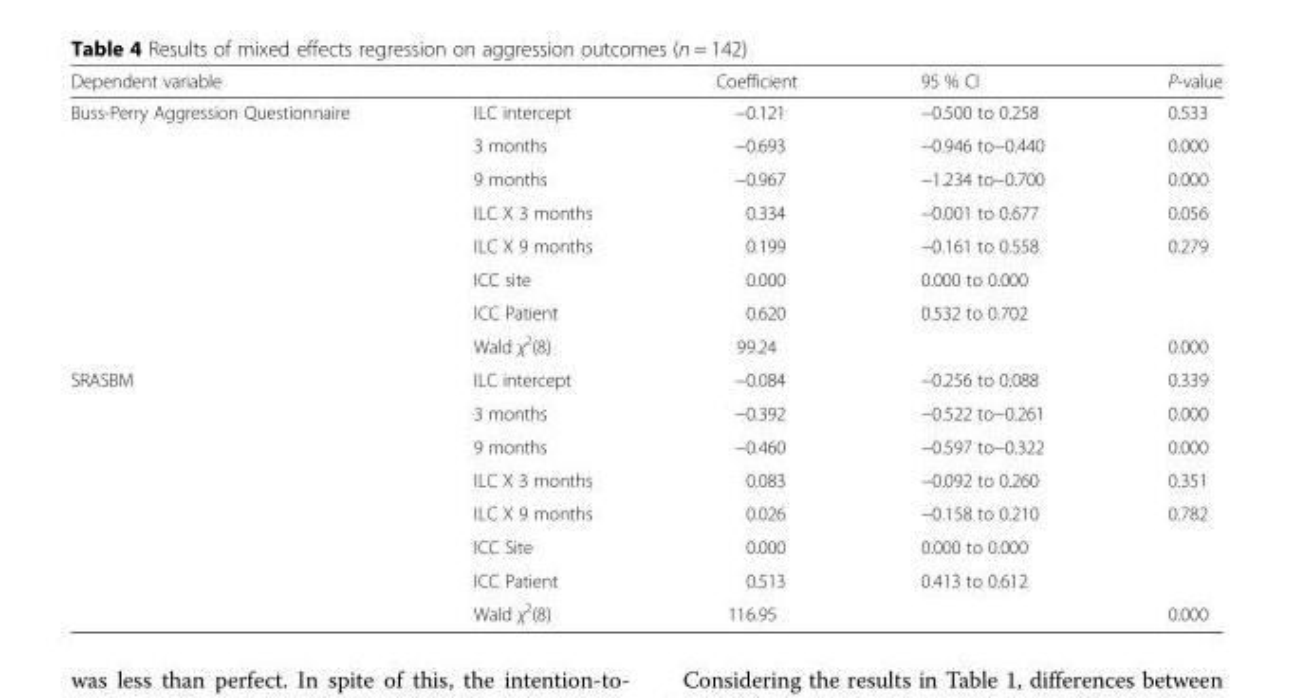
<table><thead><tr><td>Dependent variable</td><td></td><td>Coefficient</td><td>95 % CI</td><td>P-value</td></tr></thead><tbody><tr><td rowspan="8">Buss-Perry Aggression Questionnaire</td><td>ILC intercept</td><td>−0.121</td><td>−0.500 to 0.258</td><td>0.533</td></tr><tr><td>3 months</td><td>−0.693</td><td>−0.946 to−0.440</td><td>0.000</td></tr><tr><td>9 months</td><td>−0.967</td><td>−1.234 to−0.700</td><td>0.000</td></tr><tr><td>ILC X 3 months</td><td>0.334</td><td>−0.001 to 0.677</td><td>0.056</td></tr><tr><td>ILC X 9 months</td><td>0.199</td><td>−0.161 to 0.558</td><td>0.279</td></tr><tr><td>ICC site</td><td>0.000</td><td>0.000 to 0.000</td><td></td></tr><tr><td>ICC Patient</td><td>0.620</td><td>0.532 to 0.702</td><td></td></tr><tr><td>Wald χ<sup>2</sup>(8)</td><td>99.24</td><td></td><td>0.000</td></tr><tr><td rowspan="8">SRASBM</td><td>ILC intercept</td><td>−0.084</td><td>−0.256 to 0.088</td><td>0.339</td></tr><tr><td>3 months</td><td>−0.392</td><td>−0.522 to−0.261</td><td>0.000</td></tr><tr><td>9 months</td><td>−0.460</td><td>−0.597 to−0.322</td><td>0.000</td></tr><tr><td>ILC X 3 months</td><td>0.083</td><td>−0.092 to 0.260</td><td>0.351</td></tr><tr><td>ILC X 9 months</td><td>0.026</td><td>−0.158 to 0.210</td><td>0.782</td></tr><tr><td>ICC Site</td><td>0.000</td><td>0.000 to 0.000</td><td></td></tr><tr><td>ICC Patient</td><td>0.513</td><td>0.413 to 0.612</td><td></td></tr><tr><td>Wald χ<sup>2</sup>(8)</td><td>116.95</td><td></td><td>0.000</td></tr></tbody></table>